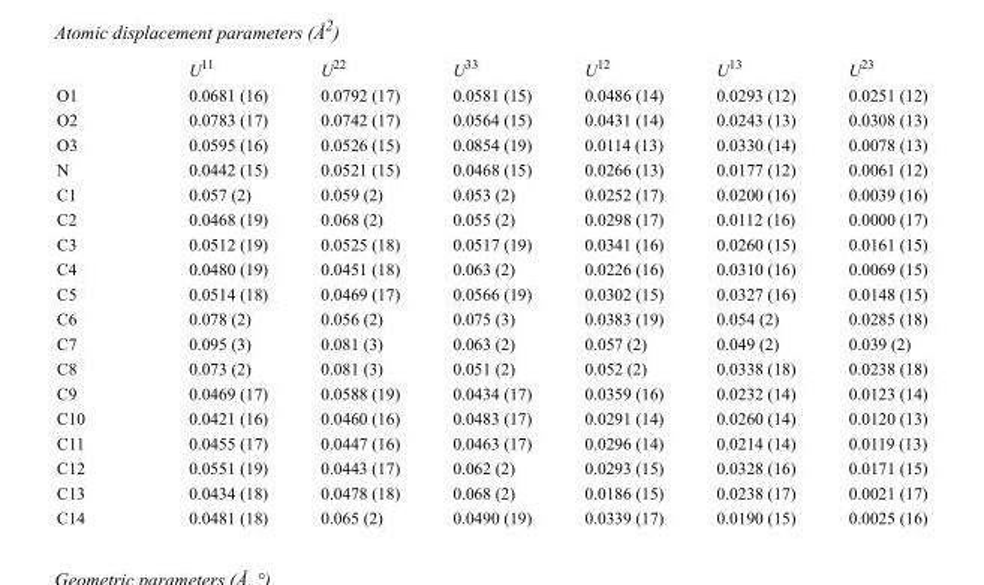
<table><thead><tr><td></td><td>U<sup>11</sup></td><td>U<sup>22</sup></td><td>U<sup>33</sup></td><td>U<sup>12</sup></td><td>U<sup>13</sup></td><td>U<sup>23</sup></td></tr></thead><tbody><tr><td>O1</td><td>0.0681 (16)</td><td>0.0792 (17)</td><td>0.0581 (15)</td><td>0.0486 (14)</td><td>0.0293 (12)</td><td>0.0251 (12)</td></tr><tr><td>O2</td><td>0.0783 (17)</td><td>0.0742 (17)</td><td>0.0564 (15)</td><td>0.0431 (14)</td><td>0.0243 (13)</td><td>0.0308 (13)</td></tr><tr><td>O3</td><td>0.0595 (16)</td><td>0.0526 (15)</td><td>0.0854 (19)</td><td>0.0114 (13)</td><td>0.0330 (14)</td><td>0.0078 (13)</td></tr><tr><td>N</td><td>0.0442 (15)</td><td>0.0521 (15)</td><td>0.0468 (15)</td><td>0.0266 (13)</td><td>0.0177 (12)</td><td>0.0061 (12)</td></tr><tr><td>C1</td><td>0.057 (2)</td><td>0.059 (2)</td><td>0.053 (2)</td><td>0.0252 (17)</td><td>0.0200 (16)</td><td>0.0039 (16)</td></tr><tr><td>C2</td><td>0.0468 (19)</td><td>0.068 (2)</td><td>0.055 (2)</td><td>0.0298 (17)</td><td>0.0112 (16)</td><td>0.0000 (17)</td></tr><tr><td>C3</td><td>0.0512 (19)</td><td>0.0525 (18)</td><td>0.0517 (19)</td><td>0.0341 (16)</td><td>0.0260 (15)</td><td>0.0161 (15)</td></tr><tr><td>C4</td><td>0.0480 (19)</td><td>0.0451 (18)</td><td>0.063 (2)</td><td>0.0226 (16)</td><td>0.0310 (16)</td><td>0.0069 (15)</td></tr><tr><td>C5</td><td>0.0514 (18)</td><td>0.0469 (17)</td><td>0.0566 (19)</td><td>0.0302 (15)</td><td>0.0327 (16)</td><td>0.0148 (15)</td></tr><tr><td>C6</td><td>0.078 (2)</td><td>0.056 (2)</td><td>0.075 (3)</td><td>0.0383 (19)</td><td>0.054 (2)</td><td>0.0285 (18)</td></tr><tr><td>C7</td><td>0.095 (3)</td><td>0.081 (3)</td><td>0.063 (2)</td><td>0.057 (2)</td><td>0.049 (2)</td><td>0.039 (2)</td></tr><tr><td>C8</td><td>0.073 (2)</td><td>0.081 (3)</td><td>0.051 (2)</td><td>0.052 (2)</td><td>0.0338 (18)</td><td>0.0238 (18)</td></tr><tr><td>C9</td><td>0.0469 (17)</td><td>0.0588 (19)</td><td>0.0434 (17)</td><td>0.0359 (16)</td><td>0.0232 (14)</td><td>0.0123 (14)</td></tr><tr><td>C10</td><td>0.0421 (16)</td><td>0.0460 (16)</td><td>0.0483 (17)</td><td>0.0291 (14)</td><td>0.0260 (14)</td><td>0.0120 (13)</td></tr><tr><td>C11</td><td>0.0455 (17)</td><td>0.0447 (16)</td><td>0.0463 (17)</td><td>0.0296 (14)</td><td>0.0214 (14)</td><td>0.0119 (13)</td></tr><tr><td>C12</td><td>0.0551 (19)</td><td>0.0443 (17)</td><td>0.062 (2)</td><td>0.0293 (15)</td><td>0.0328 (16)</td><td>0.0171 (15)</td></tr><tr><td>C13</td><td>0.0434 (18)</td><td>0.0478 (18)</td><td>0.068 (2)</td><td>0.0186 (15)</td><td>0.0238 (17)</td><td>0.0021 (17)</td></tr><tr><td>C14</td><td>0.0481 (18)</td><td>0.065 (2)</td><td>0.0490 (19)</td><td>0.0339 (17)</td><td>0.0190 (15)</td><td>0.0025 (16)</td></tr></tbody></table>